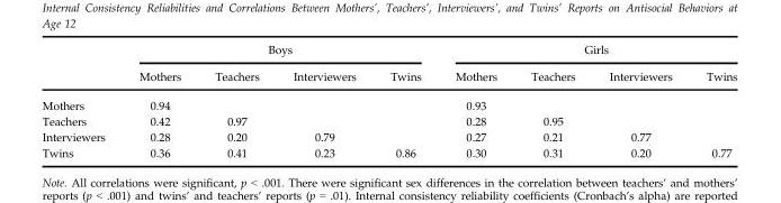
<table><thead><tr><td rowspan="2"></td><td colspan="4">Boys</td><td colspan="4">Girls</td></tr><tr><td>Mothers</td><td>Teachers</td><td>Interviewers</td><td>Twins</td><td>Mothers</td><td>Teachers</td><td>Interviewers</td><td>Twins</td></tr></thead><tbody><tr><td>Mothers</td><td>0.94</td><td></td><td></td><td></td><td>0.93</td><td></td><td></td><td></td></tr><tr><td>Teachers</td><td>0.42</td><td>0.97</td><td></td><td></td><td>0.28</td><td>0.95</td><td></td><td></td></tr><tr><td>Interviewers</td><td>0.28</td><td>0.20</td><td>0.79</td><td></td><td>0.27</td><td>0.21</td><td>0.77</td><td></td></tr><tr><td>Twins</td><td>0.36</td><td>0.41</td><td>0.23</td><td>0.86</td><td>0.30</td><td>0.31</td><td>0.20</td><td>0.77</td></tr></tbody></table>